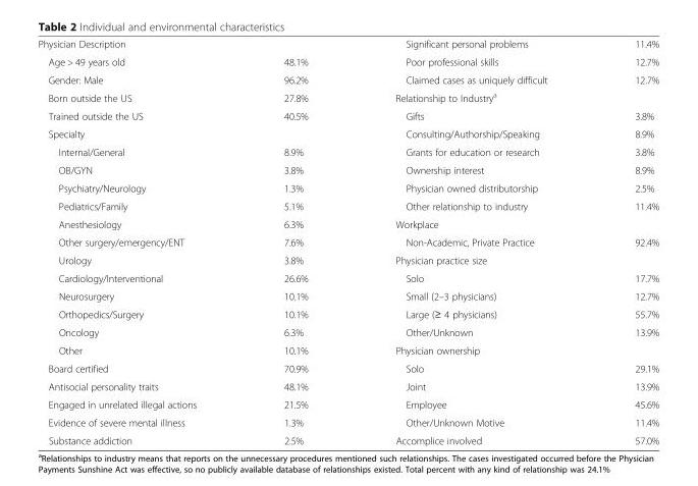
<table><tbody><tr><td colspan="2">Physician Description</td><td>Significant personal problems</td><td>11.4%</td></tr><tr><td>Age &gt; 49 years old</td><td>48.1%</td><td>Poor professional skills</td><td>12.7%</td></tr><tr><td>Gender: Male</td><td>96.2%</td><td>Claimed cases as uniquely difficult</td><td>12.7%</td></tr><tr><td>Born outside the US</td><td>27.8%</td><td>Relationship to Industry<sup>a</sup></td><td></td></tr><tr><td>Trained outside the US</td><td>40.5%</td><td>Gifts</td><td>3.8%</td></tr><tr><td>Specialty</td><td></td><td>Consulting/Authorship/Speaking</td><td>8.9%</td></tr><tr><td>Internal/General</td><td>8.9%</td><td>Grants for education or research</td><td>3.8%</td></tr><tr><td>OB/GYN</td><td>3.8%</td><td>Ownership interest</td><td>8.9%</td></tr><tr><td>Psychiatry/Neurology</td><td>1.3%</td><td>Physician owned distributorship</td><td>2.5%</td></tr><tr><td>Pediatrics/Family</td><td>5.1%</td><td>Other relationship to industry</td><td>11.4%</td></tr><tr><td>Anesthesiology</td><td>6.3%</td><td>Workplace</td><td></td></tr><tr><td>Other surgery/emergency/ENT</td><td>7.6%</td><td>Non-Academic, Private Practice</td><td>92.4%</td></tr><tr><td>Urology</td><td>3.8%</td><td>Physician practice size</td><td></td></tr><tr><td>Cardiology/Interventional</td><td>26.6%</td><td>Solo</td><td>17.7%</td></tr><tr><td>Neurosurgery</td><td>10.1%</td><td>Small (2–3 physicians)</td><td>12.7%</td></tr><tr><td>Orthopedics/Surgery</td><td>10.1%</td><td>Large (≥ 4 physicians)</td><td>55.7%</td></tr><tr><td>Oncology</td><td>6.3%</td><td>Other/Unknown</td><td>13.9%</td></tr><tr><td>Other</td><td>10.1%</td><td>Physician ownership</td><td></td></tr><tr><td>Board certified</td><td>70.9%</td><td>Solo</td><td>29.1%</td></tr><tr><td>Antisocial personality traits</td><td>48.1%</td><td>Joint</td><td>13.9%</td></tr><tr><td>Engaged in unrelated illegal actions</td><td>21.5%</td><td>Employee</td><td>45.6%</td></tr><tr><td>Evidence of severe mental illness</td><td>1.3%</td><td>Other/Unknown Motive</td><td>11.4%</td></tr><tr><td>Substance addiction</td><td>2.5%</td><td>Accomplice involved</td><td>57.0%</td></tr></tbody></table>